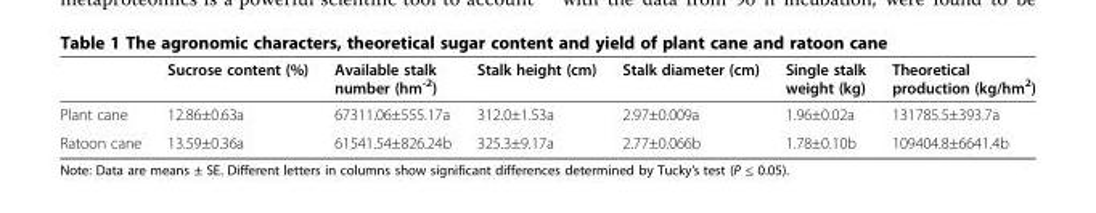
<table><thead><tr><td></td><td>Sucrose content (%)</td><td>Available stalk number (hm<sup>-2</sup>)</td><td>Stalk height (cm)</td><td>Stalk diameter (cm)</td><td>Single stalk weight (kg)</td><td>Theoretical production (kg/hm<sup>2</sup>)</td></tr></thead><tbody><tr><td>Plant cane</td><td>12.86±0.63a</td><td>67311.06±555.17a</td><td>312.0±1.53a</td><td>2.97±0.009a</td><td>1.96±0.02a</td><td>131785.5±393.7a</td></tr><tr><td>Ratoon cane</td><td>13.59±0.36a</td><td>61541.54±826.24b</td><td>325.3±9.17a</td><td>2.77±0.066b</td><td>1.78±0.10b</td><td>109404.8±6641.4b</td></tr></tbody></table>